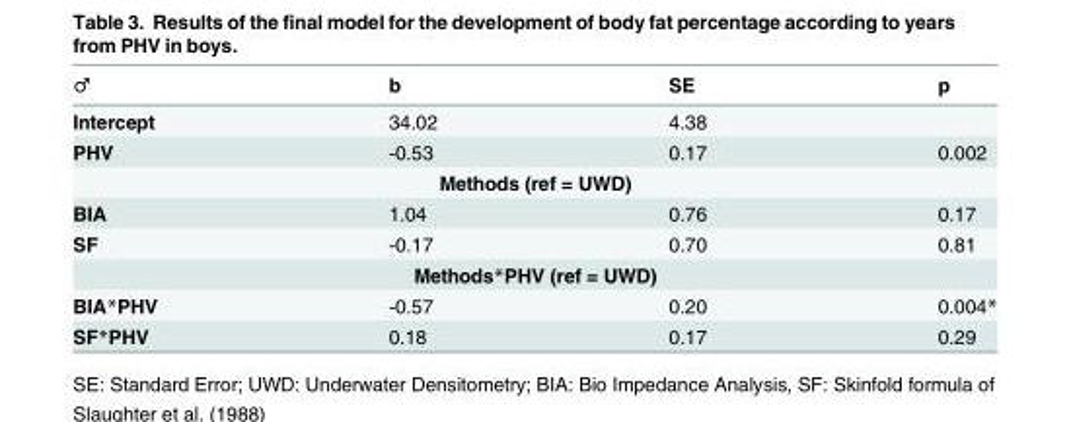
<table><thead><tr><td>♂</td><td>b</td><td>SE</td><td>p</td></tr></thead><tbody><tr><td>Intercept</td><td>34.02</td><td>4.38</td><td></td></tr><tr><td>PHV</td><td>-0.53</td><td>0.17</td><td>0.002</td></tr><tr><td colspan="4">Methods (ref = UWD)</td></tr><tr><td>BIA</td><td>1.04</td><td>0.76</td><td>0.17</td></tr><tr><td>SF</td><td>-0.17</td><td>0.70</td><td>0.81</td></tr><tr><td colspan="4">Methods*PHV (ref = UWD)</td></tr><tr><td>BIA*PHV</td><td>-0.57</td><td>0.20</td><td>0.004*</td></tr><tr><td>SF*PHV</td><td>0.18</td><td>0.17</td><td>0.29</td></tr></tbody></table>